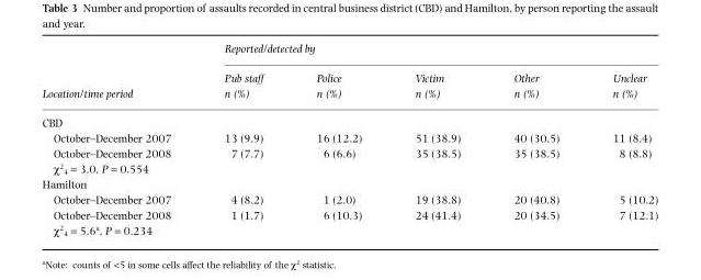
<table><thead><tr><td rowspan="3">Location/time period</td><td colspan="5">Reported/detected by</td></tr><tr><td rowspan="2">Pub staff n (%)</td><td rowspan="2">Police n (%)</td><td rowspan="2">Victim n (%)</td><td rowspan="2">Other n (%)</td><td rowspan="2">Unclear n (%)</td></tr><tr></tr></thead><tbody><tr><td colspan="6">CBD</td></tr><tr><td>October–December 2007</td><td>13 (9.9)</td><td>16 (12.2)</td><td>51 (38.9)</td><td>40 (30.5)</td><td>11 (8.4)</td></tr><tr><td>October–December 2008</td><td>7 (7.7)</td><td>6 (6.6)</td><td>35 (38.5)</td><td>35 (38.5)</td><td>8 (8.8)</td></tr><tr><td colspan="6">χ<sup>2</sup> <sub>4</sub> = 3.0, P = 0.554</td></tr><tr><td colspan="6">Hamilton</td></tr><tr><td>October–December 2007</td><td>4 (8.2)</td><td>1 (2.0)</td><td>19 (38.8)</td><td>20 (40.8)</td><td>5 (10.2)</td></tr><tr><td>October–December 2008</td><td>1 (1.7)</td><td>6 (10.3)</td><td>24 (41.4)</td><td>20 (34.5)</td><td>7 (12.1)</td></tr><tr><td>χ<sup>2</sup> <sub>4</sub> = 5.6<sup>a</sup>, P = 0.234</td><td></td><td></td><td></td><td></td><td></td></tr></tbody></table>